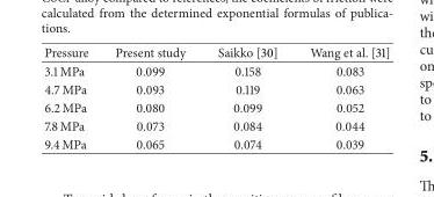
<table><thead><tr><td>Pressure</td><td>Present study</td><td>Saikko [30]</td><td>Wang et al. [31]</td></tr></thead><tbody><tr><td>3.1 MPa</td><td>0.099</td><td>0.158</td><td>0.083</td></tr><tr><td>4.7 MPa</td><td>0.093</td><td>0.119</td><td>0.063</td></tr><tr><td>6.2 MPa</td><td>0.080</td><td>0.099</td><td>0.052</td></tr><tr><td>7.8 MPa</td><td>0.073</td><td>0.084</td><td>0.044</td></tr><tr><td>9.4 MPa</td><td>0.065</td><td>0.074</td><td>0.039</td></tr></tbody></table>